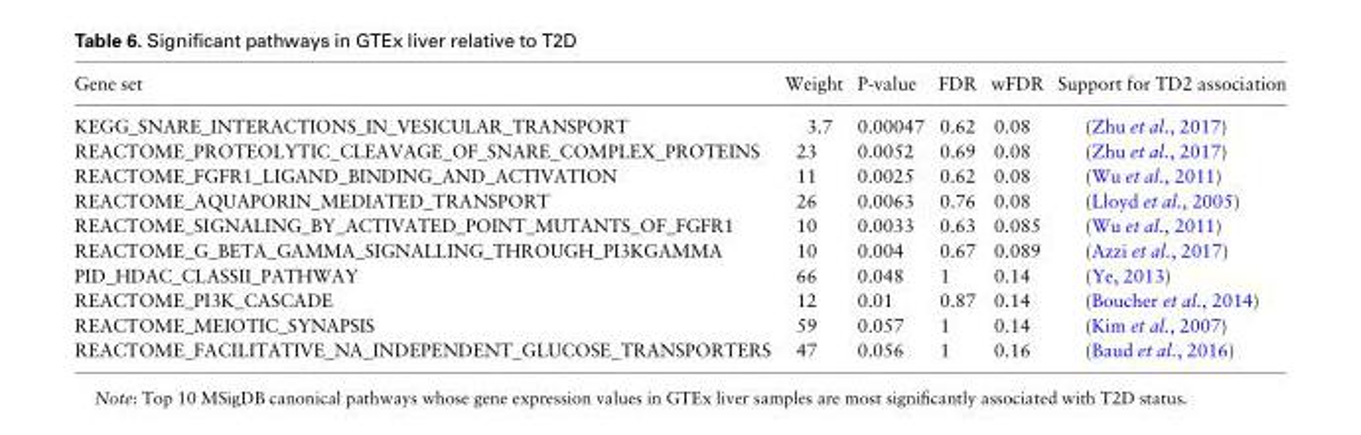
<table><thead><tr><td>Gene set</td><td>Weight</td><td>P-value</td><td>FDR</td><td>wFDR</td><td>Support for TD2 association</td></tr></thead><tbody><tr><td>KEGG_SNARE_INTERACTIONS_IN_VESICULAR_TRANSPORT</td><td>3.7</td><td>0.00047</td><td>0.62</td><td>0.08</td><td>(Zhu et al., 2017)</td></tr><tr><td>REACTOME_PROTEOLYTIC_CLEAVAGE_OF_SNARE_COMPLEX_PROTEINS</td><td>23</td><td>0.0052</td><td>0.69</td><td>0.08</td><td>(Zhu et al., 2017)</td></tr><tr><td>REACTOME_FGFR1_LIGAND_BINDING_AND_ACTIVATION</td><td>11</td><td>0.0025</td><td>0.62</td><td>0.08</td><td>(Wu et al., 2011)</td></tr><tr><td>REACTOME_AQUAPORIN_MEDIATED_TRANSPORT</td><td>26</td><td>0.0063</td><td>0.76</td><td>0.08</td><td>(Lloyd et al., 2005)</td></tr><tr><td>REACTOME_SIGNALING_BY_ACTIVATED_POINT_MUTANTS_OF_FGFR1</td><td>10</td><td>0.0033</td><td>0.63</td><td>0.085</td><td>(Wu et al., 2011)</td></tr><tr><td>REACTOME_G_BETA_GAMMA_SIGNALLING_THROUGH_PI3KGAMMA</td><td>10</td><td>0.004</td><td>0.67</td><td>0.089</td><td>(Azzi et al., 2017)</td></tr><tr><td>PID_HDAC_CLASSII_PATHWAY</td><td>66</td><td>0.048</td><td>1</td><td>0.14</td><td>(Ye, 2013)</td></tr><tr><td>REACTOME_PI3K_CASCADE</td><td>12</td><td>0.01</td><td>0.87</td><td>0.14</td><td>(Boucher et al., 2014)</td></tr><tr><td>REACTOME_MEIOTIC_SYNAPSIS</td><td>59</td><td>0.057</td><td>1</td><td>0.14</td><td>(Kim et al., 2007)</td></tr><tr><td>REACTOME_FACILITATIVE_NA_INDEPENDENT_GLUCOSE_TRANSPORTERS</td><td>47</td><td>0.056</td><td>1</td><td>0.16</td><td>(Baud et al., 2016)</td></tr></tbody></table>